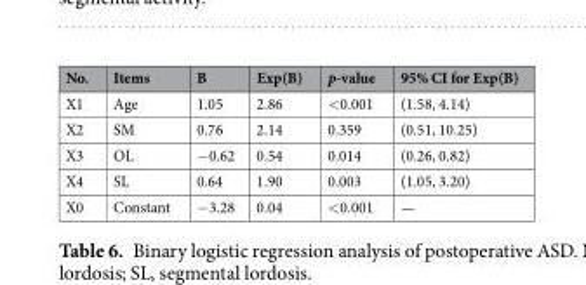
<table><thead><tr><td>No.</td><td>Items</td><td>B</td><td>Exp(B)</td><td>p-value</td><td>95% CI for Exp(B)</td></tr></thead><tbody><tr><td>X1</td><td>Age</td><td>1.05</td><td>2.86</td><td>&lt;0.001</td><td>(1.58, 4.14)</td></tr><tr><td>X2</td><td>SM</td><td>0.76</td><td>2.14</td><td>0.359</td><td>(0.51, 10.25)</td></tr><tr><td>X3</td><td>OL</td><td>−0.62</td><td>0.54</td><td>0.014</td><td>(0.26, 0.82)</td></tr><tr><td>X4</td><td>SL</td><td>0.64</td><td>1.90</td><td>0.003</td><td>(1.05, 3.20)</td></tr><tr><td>X0</td><td>Constant</td><td>−3.28</td><td>0.04</td><td>&lt;0.001</td><td>—</td></tr></tbody></table>